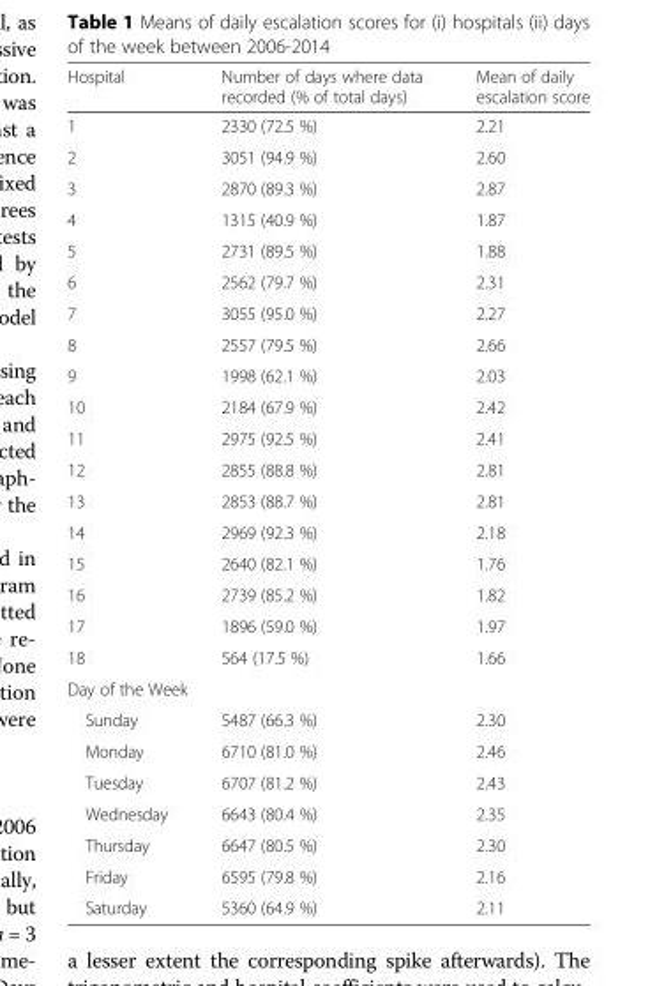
<table><thead><tr><td>Hospital</td><td>Number of days where data recorded (% of total days)</td><td>Mean of daily escalation score</td></tr></thead><tbody><tr><td>1</td><td>2330 (72.5 %)</td><td>2.21</td></tr><tr><td>2</td><td>3051 (94.9 %)</td><td>2.60</td></tr><tr><td>3</td><td>2870 (89.3 %)</td><td>2.87</td></tr><tr><td>4</td><td>1315 (40.9 %)</td><td>1.87</td></tr><tr><td>5</td><td>2731 (89.5 %)</td><td>1.88</td></tr><tr><td>6</td><td>2562 (79.7 %)</td><td>2.31</td></tr><tr><td>7</td><td>3055 (95.0 %)</td><td>2.27</td></tr><tr><td>8</td><td>2557 (79.5 %)</td><td>2.66</td></tr><tr><td>9</td><td>1998 (62.1 %)</td><td>2.03</td></tr><tr><td>10</td><td>2184 (67.9 %)</td><td>2.42</td></tr><tr><td>11</td><td>2975 (92.5 %)</td><td>2.41</td></tr><tr><td>12</td><td>2855 (88.8 %)</td><td>2.81</td></tr><tr><td>13</td><td>2853 (88.7 %)</td><td>2.81</td></tr><tr><td>14</td><td>2969 (92.3 %)</td><td>2.18</td></tr><tr><td>15</td><td>2640 (82.1 %)</td><td>1.76</td></tr><tr><td>16</td><td>2739 (85.2 %)</td><td>1.82</td></tr><tr><td>17</td><td>1896 (59.0 %)</td><td>1.97</td></tr><tr><td>18</td><td>564 (17.5 %)</td><td>1.66</td></tr><tr><td colspan="3">Day of the Week</td></tr><tr><td>Sunday</td><td>5487 (66.3 %)</td><td>2.30</td></tr><tr><td>Monday</td><td>6710 (81.0 %)</td><td>2.46</td></tr><tr><td>Tuesday</td><td>6707 (81.2 %)</td><td>2.43</td></tr><tr><td>Wednesday</td><td>6643 (80.4 %)</td><td>2.35</td></tr><tr><td>Thursday</td><td>6647 (80.5 %)</td><td>2.30</td></tr><tr><td>Friday</td><td>6595 (79.8 %)</td><td>2.16</td></tr><tr><td>Saturday</td><td>5360 (64.9 %)</td><td>2.11</td></tr></tbody></table>